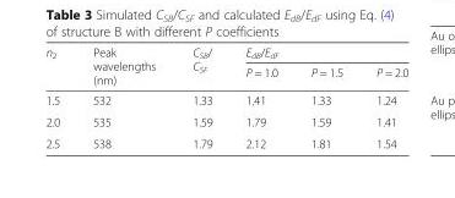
<table><thead><tr><td rowspan="2">n<sub>2</sub></td><td rowspan="2">Peak wavelengths (nm)</td><td rowspan="2">C<sub>SB</sub>/ C<sub>SF</sub></td><td colspan="3">E<sub>dB</sub>/E<sub>dF</sub></td></tr><tr><td>P = 1.0</td><td>P = 1.5</td><td>P = 2.0</td></tr></thead><tbody><tr><td>1.5</td><td>532</td><td>1.33</td><td>1.41</td><td>1.33</td><td>1.24</td></tr><tr><td>2.0</td><td>535</td><td>1.59</td><td>1.79</td><td>1.59</td><td>1.41</td></tr><tr><td>2.5</td><td>538</td><td>1.79</td><td>2.12</td><td>1.81</td><td>1.54</td></tr></tbody></table>